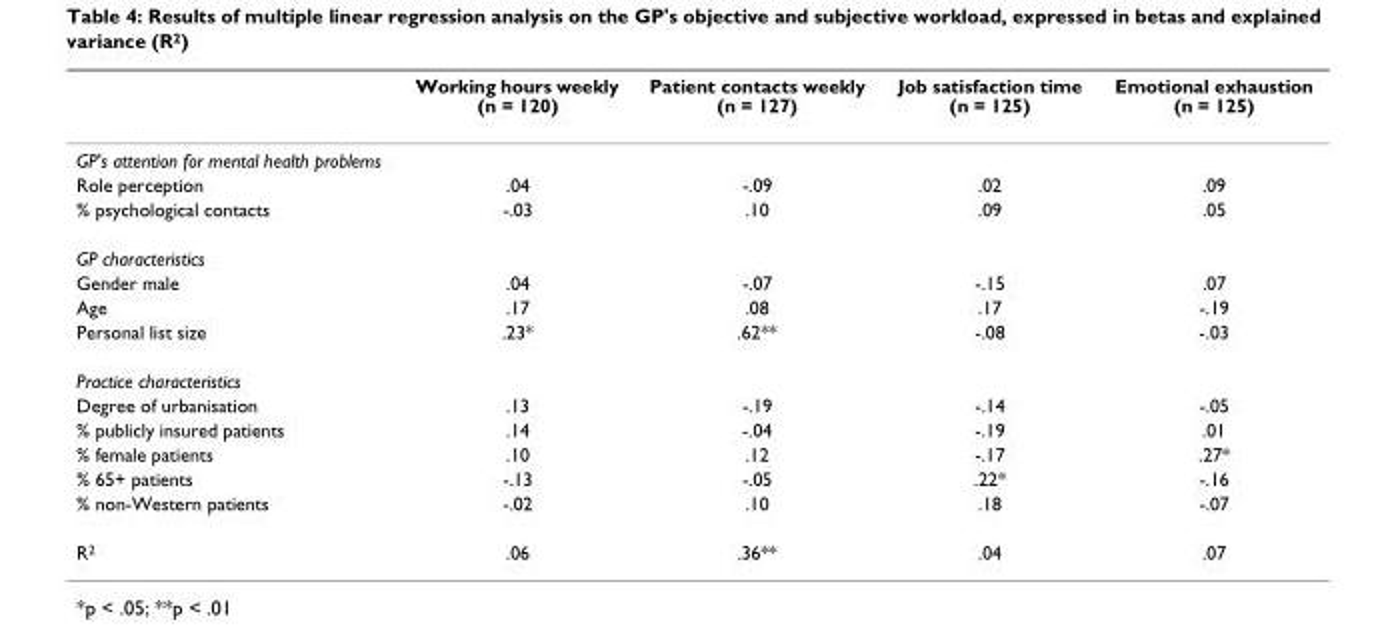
<table><thead><tr><td></td><td>Working hours weekly (n = 120)</td><td>Patient contacts weekly (n = 127)</td><td>Job satisfaction time (n = 125)</td><td>Emotional exhaustion (n = 125)</td></tr></thead><tbody><tr><td colspan="5">GP&#x27;s attention for mental health problems</td></tr><tr><td>Role perception</td><td>.04</td><td>-.09</td><td>.02</td><td>.09</td></tr><tr><td>% psychological contacts</td><td>-.03</td><td>.10</td><td>.09</td><td>.05</td></tr><tr><td colspan="5">GP characteristics</td></tr><tr><td>Gender male</td><td>.04</td><td>-.07</td><td>-.15</td><td>.07</td></tr><tr><td>Age</td><td>.17</td><td>.08</td><td>.17</td><td>-.19</td></tr><tr><td>Personal list size</td><td>.23*</td><td>.62**</td><td>-.08</td><td>-.03</td></tr><tr><td colspan="5">Practice characteristics</td></tr><tr><td>Degree of urbanisation</td><td>.13</td><td>-.19</td><td>-.14</td><td>-.05</td></tr><tr><td>% publicly insured patients</td><td>.14</td><td>-.04</td><td>-.19</td><td>.01</td></tr><tr><td>% female patients</td><td>.10</td><td>.12</td><td>-.17</td><td>.27*</td></tr><tr><td>% 65+ patients</td><td>-.13</td><td>-.05</td><td>.22*</td><td>-.16</td></tr><tr><td>% non-Western patients</td><td>-.02</td><td>.10</td><td>.18</td><td>-.07</td></tr><tr><td>R<sup>2</sup></td><td>.06</td><td>.36**</td><td>.04</td><td>.07</td></tr></tbody></table>